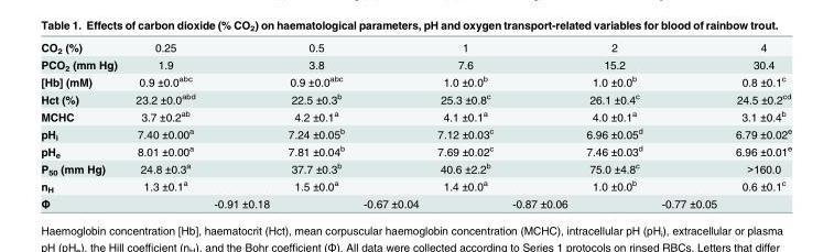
<table><tbody><tr><td>CO<sub>2</sub> (%)</td><td>0.25</td><td></td><td>0.5</td><td></td><td>1</td><td></td><td>2</td><td></td><td>4</td></tr><tr><td>PCO<sub>2</sub> (mm Hg)</td><td>1.9</td><td></td><td>3.8</td><td></td><td>7.6</td><td></td><td>15.2</td><td></td><td>30.4</td></tr><tr><td>[Hb] (mM)</td><td>0.9 ±0.0<sup>abc</sup></td><td></td><td>0.9 ±0.0<sup>abc</sup></td><td></td><td>1.0 ±0.0<sup>b</sup></td><td></td><td>1.0 ±0.0<sup>b</sup></td><td></td><td>0.8 ±0.1<sup>c</sup></td></tr><tr><td>Hct (%)</td><td>23.2 ±0.0<sup>abd</sup></td><td></td><td>22.5 ±0.3<sup>b</sup></td><td></td><td>25.3 ±0.8<sup>c</sup></td><td></td><td>26.1 ±0.4<sup>c</sup></td><td></td><td>24.5 ±0.2<sup>cd</sup></td></tr><tr><td>MCHC</td><td>3.7 ±0.2<sup>ab</sup></td><td></td><td>4.2 ±0.1<sup>a</sup></td><td></td><td>4.1 ±0.1<sup>a</sup></td><td></td><td>4.0 ±0.1<sup>a</sup></td><td></td><td>3.1 ±0.4<sup>b</sup></td></tr><tr><td>pH<sub>i</sub></td><td>7.40 ±0.00<sup>a</sup></td><td></td><td>7.24 ±0.05<sup>b</sup></td><td></td><td>7.12 ±0.03<sup>c</sup></td><td></td><td>6.96 ±0.05<sup>d</sup></td><td></td><td>6.79 ±0.02<sup>e</sup></td></tr><tr><td>pH<sub>e</sub></td><td>8.01 ±0.00<sup>a</sup></td><td></td><td>7.81 ±0.04<sup>b</sup></td><td></td><td>7.69 ±0.02<sup>c</sup></td><td></td><td>7.46 ±0.03<sup>d</sup></td><td></td><td>6.96 ±0.01<sup>e</sup></td></tr><tr><td>P<sub>50</sub> (mm Hg)</td><td>24.8 ±0.3<sup>a</sup></td><td></td><td>37.7 ±0.3<sup>b</sup></td><td></td><td>40.6 ±2.2<sup>b</sup></td><td></td><td>75.0 ±4.8<sup>c</sup></td><td></td><td>&gt;160.0</td></tr><tr><td>n<sub>H</sub></td><td>1.3 ±0.1<sup>a</sup></td><td></td><td>1.5 ±0.0<sup>a</sup></td><td></td><td>1.4 ±0.0<sup>a</sup></td><td></td><td>1.0 ±0.0<sup>b</sup></td><td></td><td>0.6 ±0.1<sup>c</sup></td></tr><tr><td>Φ</td><td></td><td>-0.91 ±0.18</td><td></td><td>-0.67 ±0.04</td><td></td><td>-0.87 ±0.06</td><td></td><td>-0.77 ±0.05</td><td></td></tr></tbody></table>